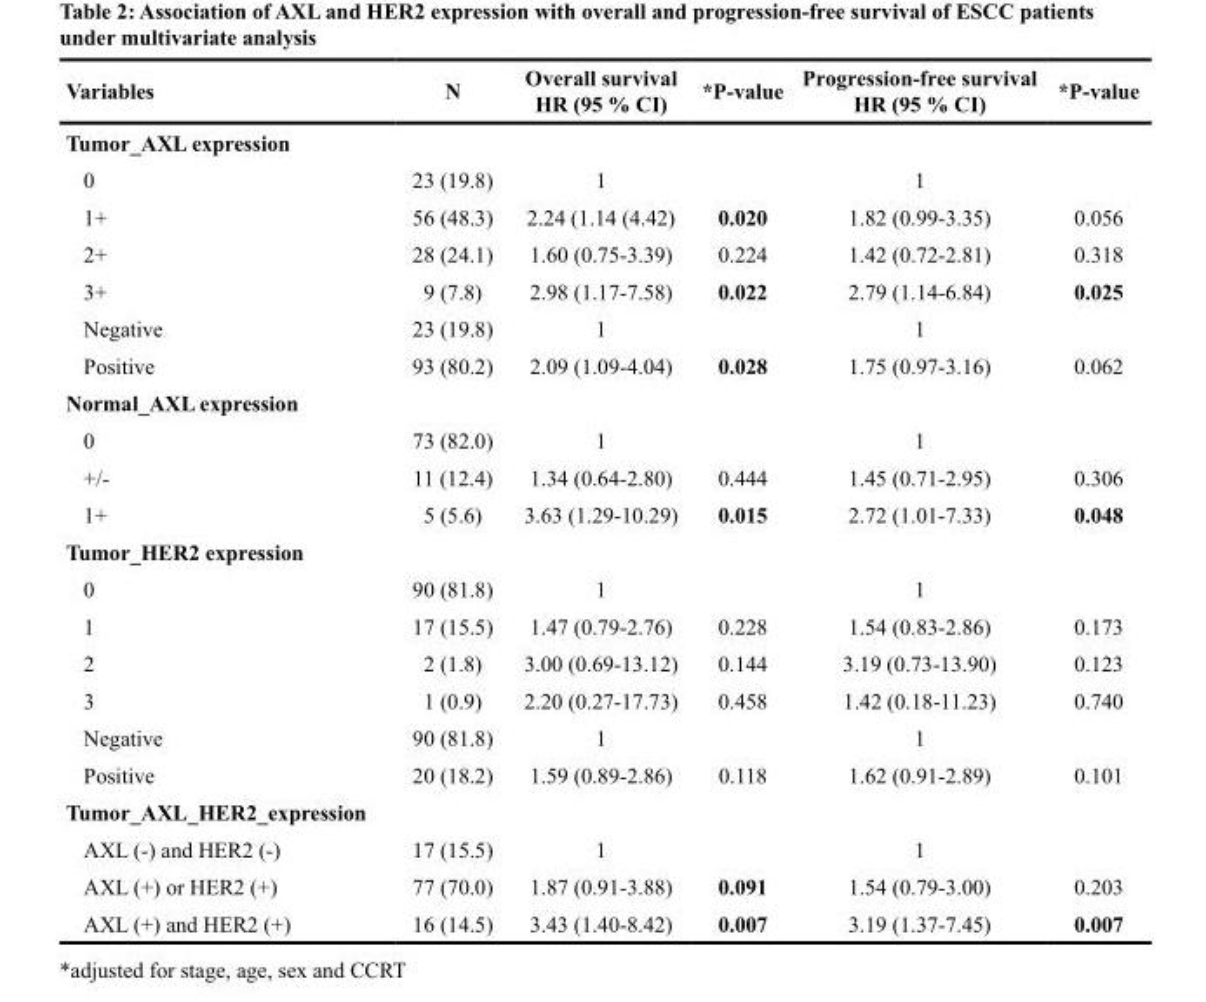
<table><thead><tr><td>Variables</td><td>N</td><td>Overall survival HR (95 % CI)</td><td>*P-value</td><td>Progression-free survival HR (95 % CI)</td><td>*P-value</td></tr></thead><tbody><tr><td colspan="6">Tumor_AXL expression</td></tr><tr><td>0</td><td>23 (19.8)</td><td>1</td><td></td><td>1</td><td></td></tr><tr><td>1+</td><td>56 (48.3)</td><td>2.24 (1.14 (4.42)</td><td>0.020</td><td>1.82 (0.99-3.35)</td><td>0.056</td></tr><tr><td>2+</td><td>28 (24.1)</td><td>1.60 (0.75-3.39)</td><td>0.224</td><td>1.42 (0.72-2.81)</td><td>0.318</td></tr><tr><td>3+</td><td>9 (7.8)</td><td>2.98 (1.17-7.58)</td><td>0.022</td><td>2.79 (1.14-6.84)</td><td>0.025</td></tr><tr><td>Negative</td><td>23 (19.8)</td><td>1</td><td></td><td>1</td><td></td></tr><tr><td>Positive</td><td>93 (80.2)</td><td>2.09 (1.09-4.04)</td><td>0.028</td><td>1.75 (0.97-3.16)</td><td>0.062</td></tr><tr><td colspan="6">Normal_AXL expression</td></tr><tr><td>0</td><td>73 (82.0)</td><td>1</td><td></td><td>1</td><td></td></tr><tr><td>+/-</td><td>11 (12.4)</td><td>1.34 (0.64-2.80)</td><td>0.444</td><td>1.45 (0.71-2.95)</td><td>0.306</td></tr><tr><td>1+</td><td>5 (5.6)</td><td>3.63 (1.29-10.29)</td><td>0.015</td><td>2.72 (1.01-7.33)</td><td>0.048</td></tr><tr><td colspan="6">Tumor_HER2 expression</td></tr><tr><td>0</td><td>90 (81.8)</td><td>1</td><td></td><td>1</td><td></td></tr><tr><td>1</td><td>17 (15.5)</td><td>1.47 (0.79-2.76)</td><td>0.228</td><td>1.54 (0.83-2.86)</td><td>0.173</td></tr><tr><td>2</td><td>2 (1.8)</td><td>3.00 (0.69-13.12)</td><td>0.144</td><td>3.19 (0.73-13.90)</td><td>0.123</td></tr><tr><td>3</td><td>1 (0.9)</td><td>2.20 (0.27-17.73)</td><td>0.458</td><td>1.42 (0.18-11.23)</td><td>0.740</td></tr><tr><td>Negative</td><td>90 (81.8)</td><td>1</td><td></td><td>1</td><td></td></tr><tr><td>Positive</td><td>20 (18.2)</td><td>1.59 (0.89-2.86)</td><td>0.118</td><td>1.62 (0.91-2.89)</td><td>0.101</td></tr><tr><td colspan="6">Tumor_AXL_HER2_expression</td></tr><tr><td>AXL (-) and HER2 (-)</td><td>17 (15.5)</td><td>1</td><td></td><td>1</td><td></td></tr><tr><td>AXL (+) or HER2 (+)</td><td>77 (70.0)</td><td>1.87 (0.91-3.88)</td><td>0.091</td><td>1.54 (0.79-3.00)</td><td>0.203</td></tr><tr><td>AXL (+) and HER2 (+)</td><td>16 (14.5)</td><td>3.43 (1.40-8.42)</td><td>0.007</td><td>3.19 (1.37-7.45)</td><td>0.007</td></tr></tbody></table>